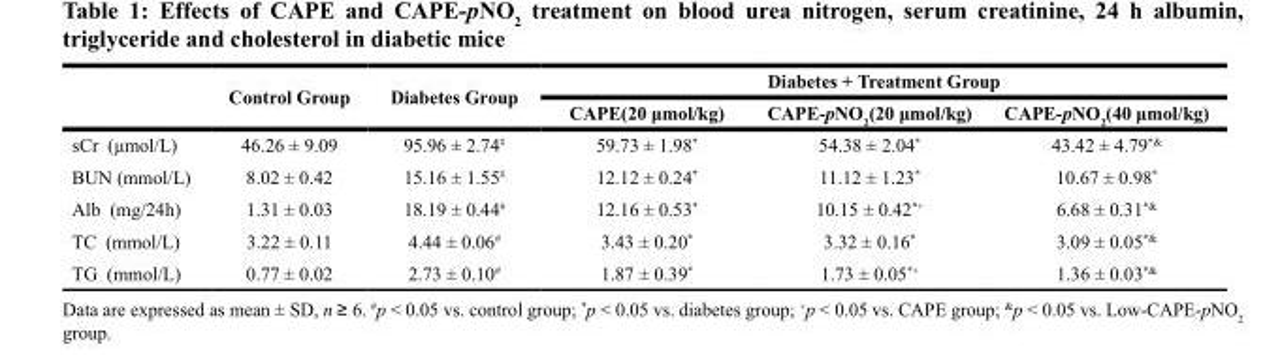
<table><thead><tr><td rowspan="2"></td><td rowspan="2">Control Group</td><td rowspan="2">Diabetes Group</td><td colspan="3">Diabetes + Treatment Group</td></tr><tr><td>CAPE(20 μmol/kg)</td><td>CAPE-pNO<sub>2</sub>(20 μmol/kg)</td><td>CAPE-pNO<sub>2</sub>(40 μmol/kg)</td></tr></thead><tbody><tr><td>sCr (μmol/L)</td><td>46.26 ± 9.09</td><td>95.96 ± 2.74<sup>#</sup></td><td>59.73 ± 1.98*</td><td>54.38 ± 2.04*</td><td>43.42 ± 4.79<sup>*&amp;</sup></td></tr><tr><td>BUN (mmol/L)</td><td>8.02 ± 0.42</td><td>15.16 ± 1.55<sup>#</sup></td><td>12.12 ± 0.24*</td><td>11.12 ± 1.23*</td><td>10.67 ± 0.98*</td></tr><tr><td>Alb (mg/24h)</td><td>1.31 ± 0.03</td><td>18.19 ± 0.44<sup>#</sup></td><td>12.16 ± 0.53*</td><td>10.15 ± 0.42<sup>*+</sup></td><td>6.68 ± 0.31<sup>*&amp;</sup></td></tr><tr><td>TC (mmol/L)</td><td>3.22 ± 0.11</td><td>4.44 ± 0.06<sup>#</sup></td><td>3.43 ± 0.20*</td><td>3.32 ± 0.16*</td><td>3.09 ± 0.05<sup>*&amp;</sup></td></tr><tr><td>TG (mmol/L)</td><td>0.77 ± 0.02</td><td>2.73 ± 0.10<sup>#</sup></td><td>1.87 ± 0.39*</td><td>1.73 ± 0.05<sup>*+</sup></td><td>1.36 ± 0.03<sup>*&amp;</sup></td></tr></tbody></table>